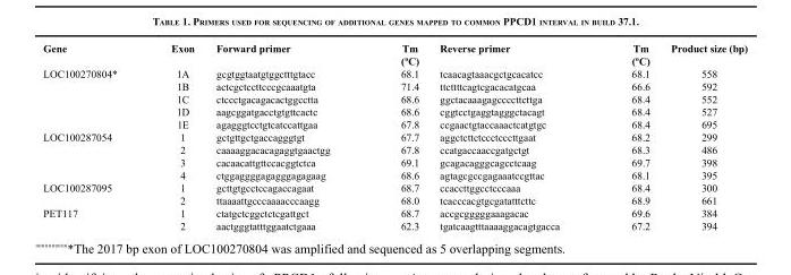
<table><thead><tr><td>Gene</td><td>Exon</td><td>Forward primer</td><td>Tm (ºC)</td><td>Reverse primer</td><td>Tm (ºC)</td><td>Product size (bp)</td></tr></thead><tbody><tr><td rowspan="5">LOC100270804*</td><td>1A</td><td>gcgtggtaatgtggctttgtacc</td><td>68.1</td><td>tcaacagtaaacgctgcacatcc</td><td>68.1</td><td>558</td></tr><tr><td>1B</td><td>actcgctccttcccgcaaatgta</td><td>71.4</td><td>ttcttttcagtcgacacatgcaa</td><td>66.6</td><td>592</td></tr><tr><td>1C</td><td>ctccctgacagacactggcctta</td><td>68.6</td><td>ggctacaaagagccccttcttga</td><td>68.4</td><td>552</td></tr><tr><td>1D</td><td>aagcggatgacctgtgttcactc</td><td>68.6</td><td>cggtcctgaggtagggctacagt</td><td>68.4</td><td>527</td></tr><tr><td>1E</td><td>agagggtcctgtcatccattgaa</td><td>67.8</td><td>ccgaactgtaccaaactcatgtgc</td><td>68.4</td><td>695</td></tr><tr><td rowspan="4">LOC100287054</td><td>1</td><td>gctgttgctgaccagggtgt</td><td>67.7</td><td>aggctcttctccctcccttgaat</td><td>68.2</td><td>299</td></tr><tr><td>2</td><td>caaaaggacacagaggtgaactgg</td><td>67.8</td><td>ccatgaccaaccgatgctgt</td><td>68.3</td><td>486</td></tr><tr><td>3</td><td>cacaacattgttccacggtctca</td><td>69.1</td><td>gcagacagggcagcctcaag</td><td>69.7</td><td>398</td></tr><tr><td>4</td><td>ctggaggggagagggagagaag</td><td>68.6</td><td>agtagcgccgagaaatccgttac</td><td>68.1</td><td>395</td></tr><tr><td rowspan="2">LOC100287095</td><td>1</td><td>gcttgtgcctccagaccagaat</td><td>68.7</td><td>ccaccttggcctcccaaa</td><td>68.4</td><td>300</td></tr><tr><td>2</td><td>ttaaaattgcccaaaacccaagg</td><td>68.0</td><td>tcacccacgtgcgatatttcttc</td><td>68.9</td><td>661</td></tr><tr><td rowspan="2">PET117</td><td>1</td><td>ctatgctcggctctcgattgct</td><td>68.7</td><td>accgcgggggaaagacac</td><td>69.6</td><td>384</td></tr><tr><td>2</td><td>aactgggtatttggaatctgaaa</td><td>62.3</td><td>tgatcaagtttaaaaggacagtgacca</td><td>67.2</td><td>394</td></tr></tbody></table>